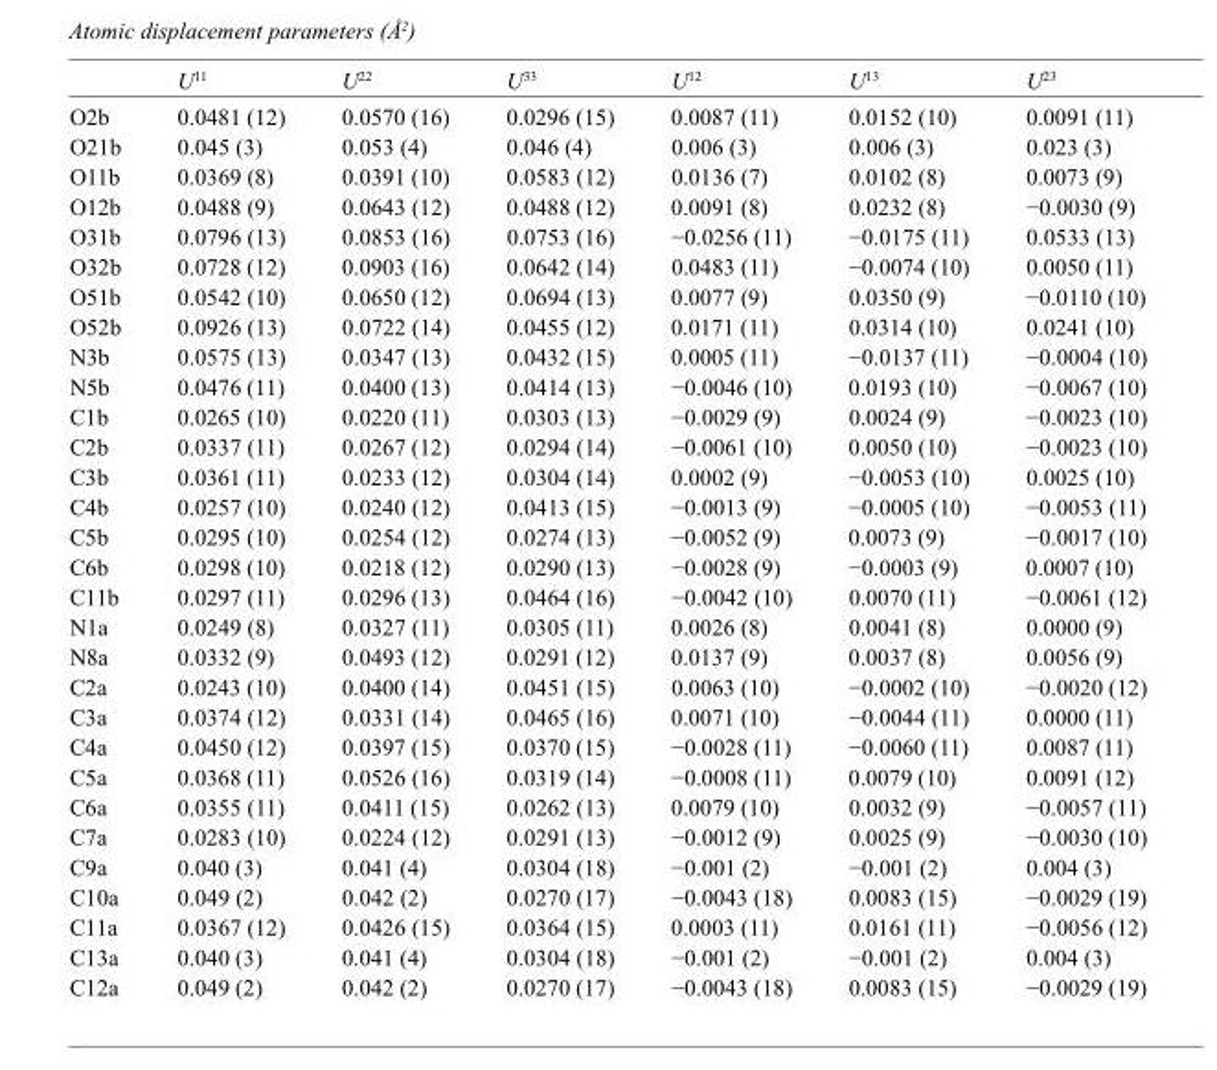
<table><thead><tr><td></td><td>U<sup>11</sup></td><td>U<sup>22</sup></td><td>U<sup>33</sup></td><td>U<sup>12</sup></td><td>U<sup>13</sup></td><td>U<sup>23</sup></td></tr></thead><tbody><tr><td>O2b</td><td>0.0481 (12)</td><td>0.0570 (16)</td><td>0.0296 (15)</td><td>0.0087 (11)</td><td>0.0152 (10)</td><td>0.0091 (11)</td></tr><tr><td>O21b</td><td>0.045 (3)</td><td>0.053 (4)</td><td>0.046 (4)</td><td>0.006 (3)</td><td>0.006 (3)</td><td>0.023 (3)</td></tr><tr><td>O11b</td><td>0.0369 (8)</td><td>0.0391 (10)</td><td>0.0583 (12)</td><td>0.0136 (7)</td><td>0.0102 (8)</td><td>0.0073 (9)</td></tr><tr><td>O12b</td><td>0.0488 (9)</td><td>0.0643 (12)</td><td>0.0488 (12)</td><td>0.0091 (8)</td><td>0.0232 (8)</td><td>−0.0030 (9)</td></tr><tr><td>O31b</td><td>0.0796 (13)</td><td>0.0853 (16)</td><td>0.0753 (16)</td><td>−0.0256 (11)</td><td>−0.0175 (11)</td><td>0.0533 (13)</td></tr><tr><td>O32b</td><td>0.0728 (12)</td><td>0.0903 (16)</td><td>0.0642 (14)</td><td>0.0483 (11)</td><td>−0.0074 (10)</td><td>0.0050 (11)</td></tr><tr><td>O51b</td><td>0.0542 (10)</td><td>0.0650 (12)</td><td>0.0694 (13)</td><td>0.0077 (9)</td><td>0.0350 (9)</td><td>−0.0110 (10)</td></tr><tr><td>O52b</td><td>0.0926 (13)</td><td>0.0722 (14)</td><td>0.0455 (12)</td><td>0.0171 (11)</td><td>0.0314 (10)</td><td>0.0241 (10)</td></tr><tr><td>N3b</td><td>0.0575 (13)</td><td>0.0347 (13)</td><td>0.0432 (15)</td><td>0.0005 (11)</td><td>−0.0137 (11)</td><td>−0.0004 (10)</td></tr><tr><td>N5b</td><td>0.0476 (11)</td><td>0.0400 (13)</td><td>0.0414 (13)</td><td>−0.0046 (10)</td><td>0.0193 (10)</td><td>−0.0067 (10)</td></tr><tr><td>C1b</td><td>0.0265 (10)</td><td>0.0220 (11)</td><td>0.0303 (13)</td><td>−0.0029 (9)</td><td>0.0024 (9)</td><td>−0.0023 (10)</td></tr><tr><td>C2b</td><td>0.0337 (11)</td><td>0.0267 (12)</td><td>0.0294 (14)</td><td>−0.0061 (10)</td><td>0.0050 (10)</td><td>−0.0023 (10)</td></tr><tr><td>C3b</td><td>0.0361 (11)</td><td>0.0233 (12)</td><td>0.0304 (14)</td><td>0.0002 (9)</td><td>−0.0053 (10)</td><td>0.0025 (10)</td></tr><tr><td>C4b</td><td>0.0257 (10)</td><td>0.0240 (12)</td><td>0.0413 (15)</td><td>−0.0013 (9)</td><td>−0.0005 (10)</td><td>−0.0053 (11)</td></tr><tr><td>C5b</td><td>0.0295 (10)</td><td>0.0254 (12)</td><td>0.0274 (13)</td><td>−0.0052 (9)</td><td>0.0073 (9)</td><td>−0.0017 (10)</td></tr><tr><td>C6b</td><td>0.0298 (10)</td><td>0.0218 (12)</td><td>0.0290 (13)</td><td>−0.0028 (9)</td><td>−0.0003 (9)</td><td>0.0007 (10)</td></tr><tr><td>C11b</td><td>0.0297 (11)</td><td>0.0296 (13)</td><td>0.0464 (16)</td><td>−0.0042 (10)</td><td>0.0070 (11)</td><td>−0.0061 (12)</td></tr><tr><td>N1a</td><td>0.0249 (8)</td><td>0.0327 (11)</td><td>0.0305 (11)</td><td>0.0026 (8)</td><td>0.0041 (8)</td><td>0.0000 (9)</td></tr><tr><td>N8a</td><td>0.0332 (9)</td><td>0.0493 (12)</td><td>0.0291 (12)</td><td>0.0137 (9)</td><td>0.0037 (8)</td><td>0.0056 (9)</td></tr><tr><td>C2a</td><td>0.0243 (10)</td><td>0.0400 (14)</td><td>0.0451 (15)</td><td>0.0063 (10)</td><td>−0.0002 (10)</td><td>−0.0020 (12)</td></tr><tr><td>C3a</td><td>0.0374 (12)</td><td>0.0331 (14)</td><td>0.0465 (16)</td><td>0.0071 (10)</td><td>−0.0044 (11)</td><td>0.0000 (11)</td></tr><tr><td>C4a</td><td>0.0450 (12)</td><td>0.0397 (15)</td><td>0.0370 (15)</td><td>−0.0028 (11)</td><td>−0.0060 (11)</td><td>0.0087 (11)</td></tr><tr><td>C5a</td><td>0.0368 (11)</td><td>0.0526 (16)</td><td>0.0319 (14)</td><td>−0.0008 (11)</td><td>0.0079 (10)</td><td>0.0091 (12)</td></tr><tr><td>C6a</td><td>0.0355 (11)</td><td>0.0411 (15)</td><td>0.0262 (13)</td><td>0.0079 (10)</td><td>0.0032 (9)</td><td>−0.0057 (11)</td></tr><tr><td>C7a</td><td>0.0283 (10)</td><td>0.0224 (12)</td><td>0.0291 (13)</td><td>−0.0012 (9)</td><td>0.0025 (9)</td><td>−0.0030 (10)</td></tr><tr><td>C9a</td><td>0.040 (3)</td><td>0.041 (4)</td><td>0.0304 (18)</td><td>−0.001 (2)</td><td>−0.001 (2)</td><td>0.004 (3)</td></tr><tr><td>C10a</td><td>0.049 (2)</td><td>0.042 (2)</td><td>0.0270 (17)</td><td>−0.0043 (18)</td><td>0.0083 (15)</td><td>−0.0029 (19)</td></tr><tr><td>C11a</td><td>0.0367 (12)</td><td>0.0426 (15)</td><td>0.0364 (15)</td><td>0.0003 (11)</td><td>0.0161 (11)</td><td>−0.0056 (12)</td></tr><tr><td>C13a</td><td>0.040 (3)</td><td>0.041 (4)</td><td>0.0304 (18)</td><td>−0.001 (2)</td><td>−0.001 (2)</td><td>0.004 (3)</td></tr><tr><td>C12a</td><td>0.049 (2)</td><td>0.042 (2)</td><td>0.0270 (17)</td><td>−0.0043 (18)</td><td>0.0083 (15)</td><td>−0.0029 (19)</td></tr></tbody></table>